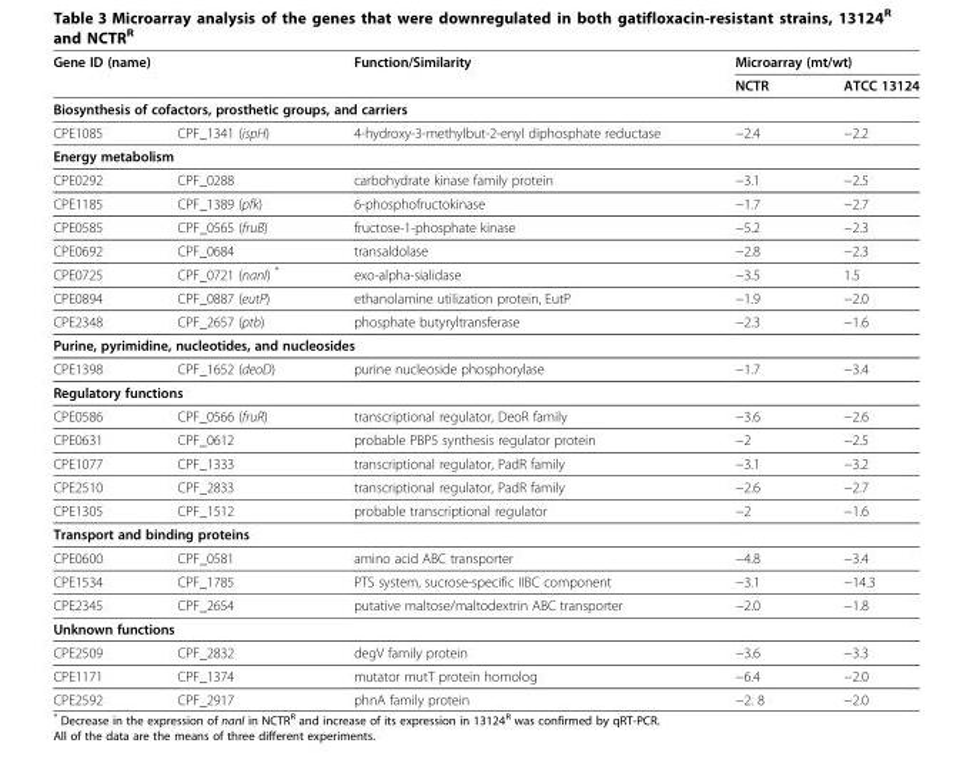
<table><thead><tr><td colspan="2">Gene ID (name)</td><td rowspan="2">Function/Similarity</td><td colspan="2">Microarray (mt/wt)</td></tr><tr><td></td><td></td><td>NCTR</td><td>ATCC 13124</td></tr></thead><tbody><tr><td colspan="5">Biosynthesis of cofactors, prosthetic groups, and carriers</td></tr><tr><td>CPE1085</td><td>CPF_1341 (ispH)</td><td>4-hydroxy-3-methylbut-2-enyl diphosphate reductase</td><td>−2.4</td><td>−2.2</td></tr><tr><td colspan="5">Energy metabolism</td></tr><tr><td>CPE0292</td><td>CPF_0288</td><td>carbohydrate kinase family protein</td><td>−3.1</td><td>−2.5</td></tr><tr><td>CPE1185</td><td>CPF_1389 (pfk)</td><td>6-phosphofructokinase</td><td>−1.7</td><td>−2.7</td></tr><tr><td>CPE0585</td><td>CPF_0565 (fruB)</td><td>fructose-1-phosphate kinase</td><td>−5.2</td><td>−2.3</td></tr><tr><td>CPE0692</td><td>CPF_0684</td><td>transaldolase</td><td>−2.8</td><td>−2.3</td></tr><tr><td>CPE0725</td><td>CPF_0721 (nanI) *</td><td>exo-alpha-sialidase</td><td>−3.5</td><td>1.5</td></tr><tr><td>CPE0894</td><td>CPF_0887 (eutP)</td><td>ethanolamine utilization protein, EutP</td><td>−1.9</td><td>−2.0</td></tr><tr><td>CPE2348</td><td>CPF_2657 (ptb)</td><td>phosphate butyryltransferase</td><td>−2.3</td><td>−1.6</td></tr><tr><td colspan="5">Purine, pyrimidine, nucleotides, and nucleosides</td></tr><tr><td>CPE1398</td><td>CPF_1652 (deoD)</td><td>purine nucleoside phosphorylase</td><td>−1.7</td><td>−3.4</td></tr><tr><td colspan="5">Regulatory functions</td></tr><tr><td>CPE0586</td><td>CPF_0566 (fruR)</td><td>transcriptional regulator, DeoR family</td><td>−3.6</td><td>−2.6</td></tr><tr><td>CPE0631</td><td>CPF_0612</td><td>probable PBP5 synthesis regulator protein</td><td>−2</td><td>−2.5</td></tr><tr><td>CPE1077</td><td>CPF_1333</td><td>transcriptional regulator, PadR family</td><td>−3.1</td><td>−3.2</td></tr><tr><td>CPE2510</td><td>CPF_2833</td><td>transcriptional regulator, PadR family</td><td>−2.6</td><td>−2.7</td></tr><tr><td>CPE1305</td><td>CPF_1512</td><td>probable transcriptional regulator</td><td>−2</td><td>−1.6</td></tr><tr><td colspan="5">Transport and binding proteins</td></tr><tr><td>CPE0600</td><td>CPF_0581</td><td>amino acid ABC transporter</td><td>−4.8</td><td>−3.4</td></tr><tr><td>CPE1534</td><td>CPF_1785</td><td>PTS system, sucrose-specific IIBC component</td><td>−3.1</td><td>−14.3</td></tr><tr><td>CPE2345</td><td>CPF_2654</td><td>putative maltose/maltodextrin ABC transporter</td><td>−2.0</td><td>−1.8</td></tr><tr><td colspan="5">Unknown functions</td></tr><tr><td>CPE2509</td><td>CPF_2832</td><td>degV family protein</td><td>−3.6</td><td>−3.3</td></tr><tr><td>CPE1171</td><td>CPF_1374</td><td>mutator mutT protein homolog</td><td>−6.4</td><td>−2.0</td></tr><tr><td>CPE2592</td><td>CPF_2917</td><td>phnA family protein</td><td>−2. 8</td><td>−2.0</td></tr></tbody></table>